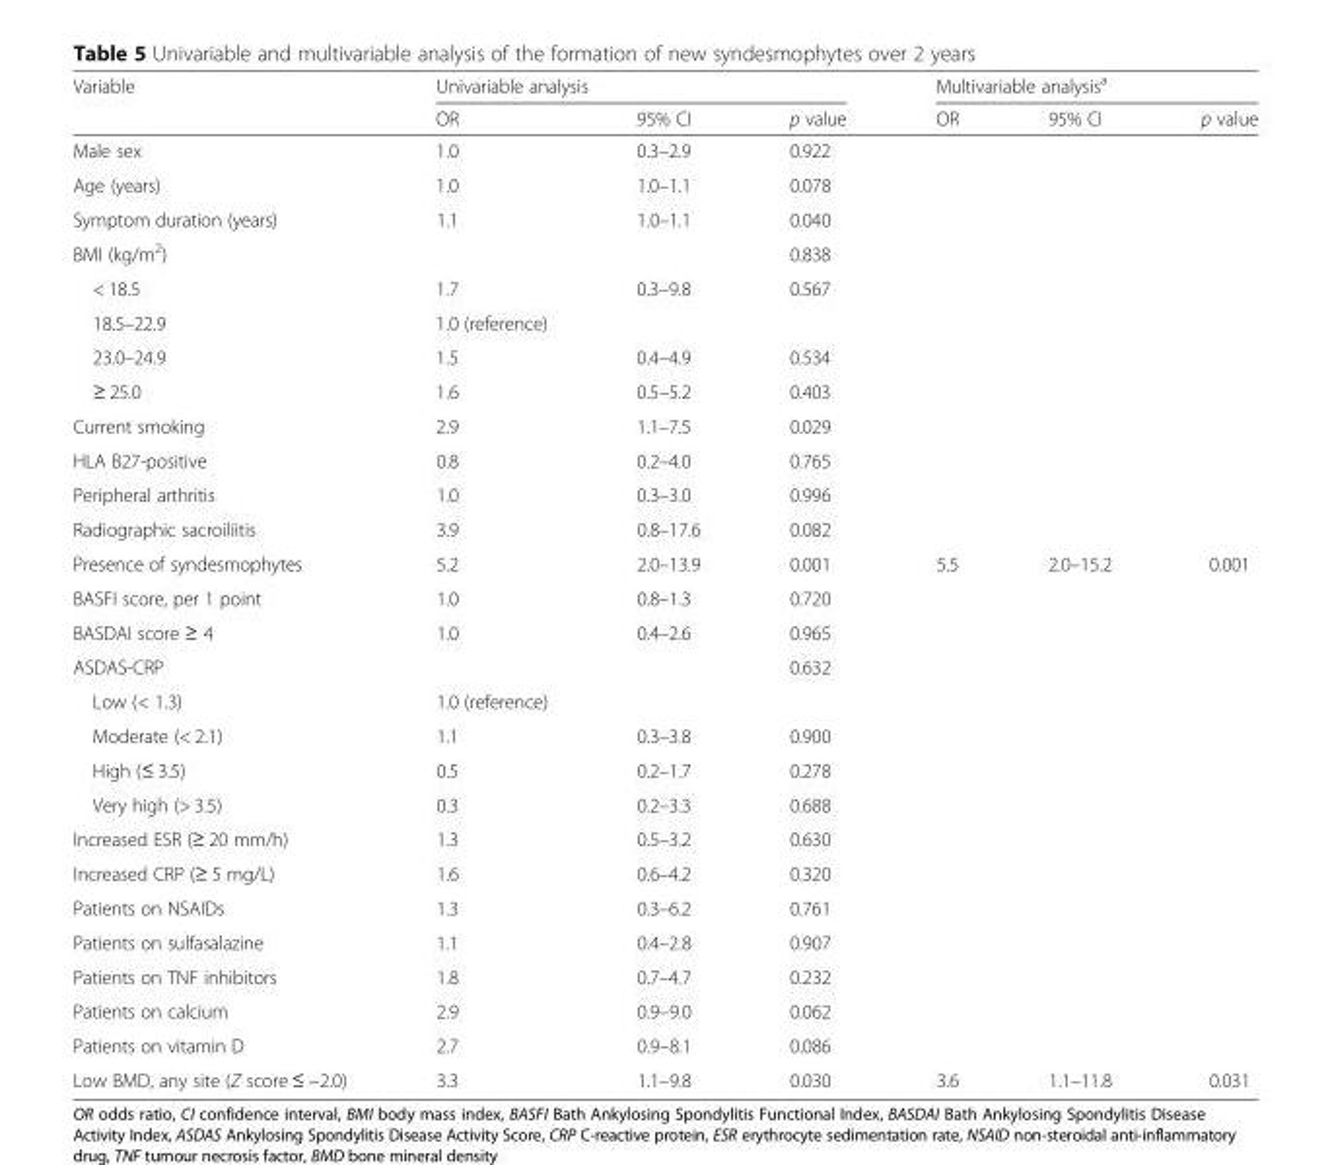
<table><thead><tr><td rowspan="2">Variable</td><td colspan="3">Univariable analysis</td><td colspan="3">Multivariable analysis<sup>a</sup></td></tr><tr><td>OR</td><td>95% CI</td><td>p value</td><td>OR</td><td>95% CI</td><td>p value</td></tr></thead><tbody><tr><td>Male sex</td><td>1.0</td><td>0.3–2.9</td><td>0.922</td><td></td><td></td><td></td></tr><tr><td>Age (years)</td><td>1.0</td><td>1.0–1.1</td><td>0.078</td><td></td><td></td><td></td></tr><tr><td>Symptom duration (years)</td><td>1.1</td><td>1.0–1.1</td><td>0.040</td><td></td><td></td><td></td></tr><tr><td>BMI (kg/m<sup>2</sup>)</td><td></td><td></td><td>0.838</td><td></td><td></td><td></td></tr><tr><td>&lt; 18.5</td><td>1.7</td><td>0.3–9.8</td><td>0.567</td><td></td><td></td><td></td></tr><tr><td>18.5–22.9</td><td>1.0 (reference)</td><td></td><td></td><td></td><td></td><td></td></tr><tr><td>23.0–24.9</td><td>1.5</td><td>0.4–4.9</td><td>0.534</td><td></td><td></td><td></td></tr><tr><td>≥ 25.0</td><td>1.6</td><td>0.5–5.2</td><td>0.403</td><td></td><td></td><td></td></tr><tr><td>Current smoking</td><td>2.9</td><td>1.1–7.5</td><td>0.029</td><td></td><td></td><td></td></tr><tr><td>HLA B27-positive</td><td>0.8</td><td>0.2–4.0</td><td>0.765</td><td></td><td></td><td></td></tr><tr><td>Peripheral arthritis</td><td>1.0</td><td>0.3–3.0</td><td>0.996</td><td></td><td></td><td></td></tr><tr><td>Radiographic sacroiliitis</td><td>3.9</td><td>0.8–17.6</td><td>0.082</td><td></td><td></td><td></td></tr><tr><td>Presence of syndesmophytes</td><td>5.2</td><td>2.0–13.9</td><td>0.001</td><td>5.5</td><td>2.0–15.2</td><td>0.001</td></tr><tr><td>BASFI score, per 1 point</td><td>1.0</td><td>0.8–1.3</td><td>0.720</td><td></td><td></td><td></td></tr><tr><td>BASDAI score ≥ 4</td><td>1.0</td><td>0.4–2.6</td><td>0.965</td><td></td><td></td><td></td></tr><tr><td>ASDAS-CRP</td><td></td><td></td><td>0.632</td><td></td><td></td><td></td></tr><tr><td>Low (&lt; 1.3)</td><td>1.0 (reference)</td><td></td><td></td><td></td><td></td><td></td></tr><tr><td>Moderate (&lt; 2.1)</td><td>1.1</td><td>0.3–3.8</td><td>0.900</td><td></td><td></td><td></td></tr><tr><td>High (≤ 3.5)</td><td>0.5</td><td>0.2–1.7</td><td>0.278</td><td></td><td></td><td></td></tr><tr><td>Very high (&gt; 3.5)</td><td>0.3</td><td>0.2–3.3</td><td>0.688</td><td></td><td></td><td></td></tr><tr><td>Increased ESR (≥ 20 mm/h)</td><td>1.3</td><td>0.5–3.2</td><td>0.630</td><td></td><td></td><td></td></tr><tr><td>Increased CRP (≥ 5 mg/L)</td><td>1.6</td><td>0.6–4.2</td><td>0.320</td><td></td><td></td><td></td></tr><tr><td>Patients on NSAIDs</td><td>1.3</td><td>0.3–6.2</td><td>0.761</td><td></td><td></td><td></td></tr><tr><td>Patients on sulfasalazine</td><td>1.1</td><td>0.4–2.8</td><td>0.907</td><td></td><td></td><td></td></tr><tr><td>Patients on TNF inhibitors</td><td>1.8</td><td>0.7–4.7</td><td>0.232</td><td></td><td></td><td></td></tr><tr><td>Patients on calcium</td><td>2.9</td><td>0.9–9.0</td><td>0.062</td><td></td><td></td><td></td></tr><tr><td>Patients on vitamin D</td><td>2.7</td><td>0.9–8.1</td><td>0.086</td><td></td><td></td><td></td></tr><tr><td>Low BMD, any site (Z score ≤ −2.0)</td><td>3.3</td><td>1.1–9.8</td><td>0.030</td><td>3.6</td><td>1.1–11.8</td><td>0.031</td></tr></tbody></table>